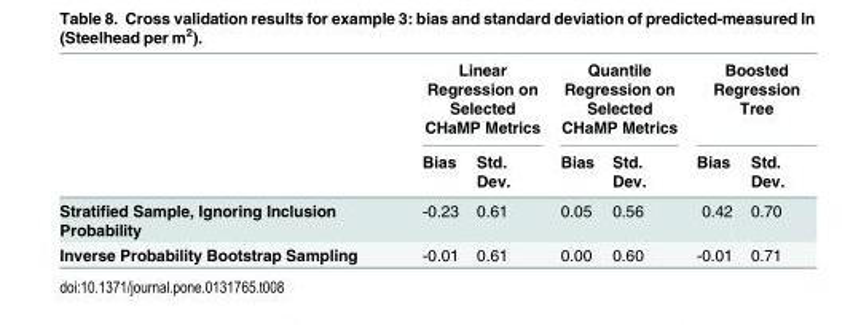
<table><thead><tr><td rowspan="2"></td><td colspan="2">Linear Regression on Selected CHaMP Metrics</td><td colspan="2">Quantile Regression on Selected CHaMP Metrics</td><td colspan="2">Boosted Regression Tree</td></tr><tr><td>Bias</td><td>Std. Dev.</td><td>Bias</td><td>Std. Dev.</td><td>Bias</td><td>Std. Dev.</td></tr></thead><tbody><tr><td>Stratified Sample, Ignoring Inclusion Probability</td><td>-0.23</td><td>0.61</td><td>0.05</td><td>0.56</td><td>0.42</td><td>0.70</td></tr><tr><td>Inverse Probability Bootstrap Sampling</td><td>-0.01</td><td>0.61</td><td>0.00</td><td>0.60</td><td>-0.01</td><td>0.71</td></tr></tbody></table>